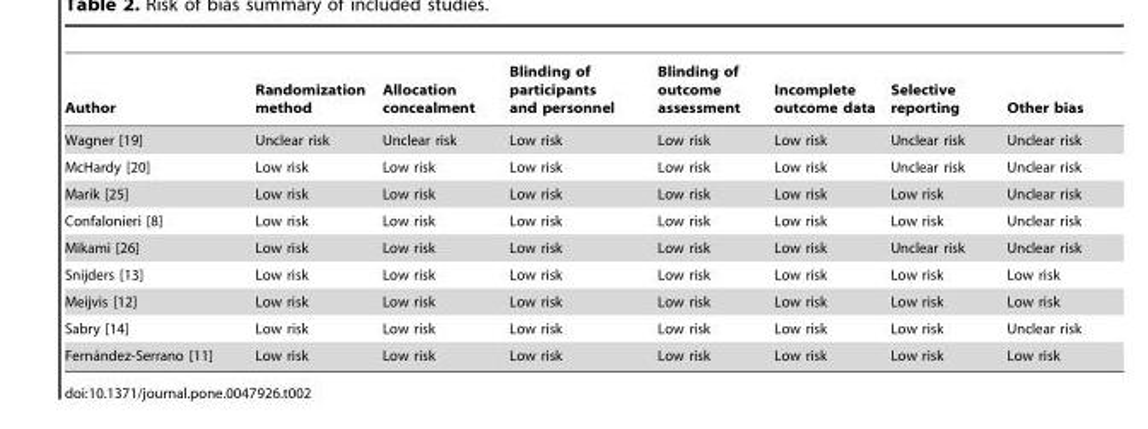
<table><thead><tr><td>Author</td><td>Randomization method</td><td>Allocation concealment</td><td>Blinding of participants and personnel</td><td>Blinding of outcome assessment</td><td>Incomplete outcome data</td><td>Selective reporting</td><td>Other bias</td></tr></thead><tbody><tr><td>Wagner [19]</td><td>Unclear risk</td><td>Unclear risk</td><td>Low risk</td><td>Low risk</td><td>Low risk</td><td>Unclear risk</td><td>Unclear risk</td></tr><tr><td>McHardy [20]</td><td>Low risk</td><td>Low risk</td><td>Low risk</td><td>Low risk</td><td>Low risk</td><td>Unclear risk</td><td>Unclear risk</td></tr><tr><td>Marik [25]</td><td>Low risk</td><td>Low risk</td><td>Low risk</td><td>Low risk</td><td>Low risk</td><td>Low risk</td><td>Unclear risk</td></tr><tr><td>Confalonieri [8]</td><td>Low risk</td><td>Low risk</td><td>Low risk</td><td>Low risk</td><td>Low risk</td><td>Low risk</td><td>Unclear risk</td></tr><tr><td>Mikami [26]</td><td>Low risk</td><td>Low risk</td><td>Low risk</td><td>Low risk</td><td>Low risk</td><td>Unclear risk</td><td>Unclear risk</td></tr><tr><td>Snijders [13]</td><td>Low risk</td><td>Low risk</td><td>Low risk</td><td>Low risk</td><td>Low risk</td><td>Low risk</td><td>Low risk</td></tr><tr><td>Meijvis [12]</td><td>Low risk</td><td>Low risk</td><td>Low risk</td><td>Low risk</td><td>Low risk</td><td>Low risk</td><td>Low risk</td></tr><tr><td>Sabry [14]</td><td>Low risk</td><td>Low risk</td><td>Low risk</td><td>Low risk</td><td>Low risk</td><td>Low risk</td><td>Unclear risk</td></tr><tr><td>Ferna´ndez-Serrano [11]</td><td>Low risk</td><td>Low risk</td><td>Low risk</td><td>Low risk</td><td>Low risk</td><td>Low risk</td><td>Low risk</td></tr></tbody></table>